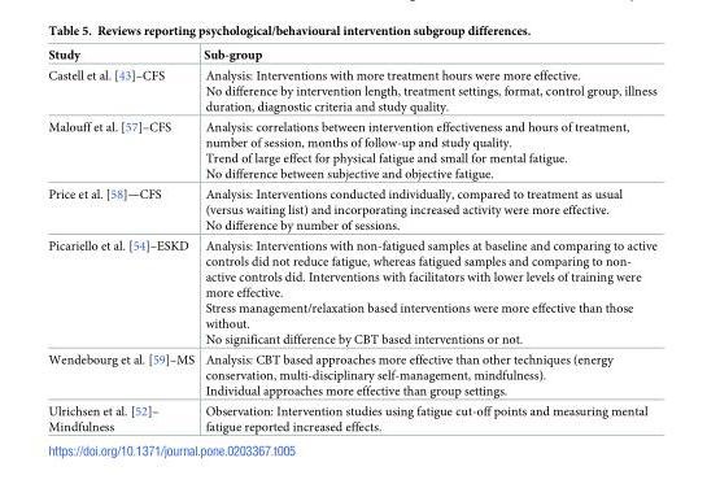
<table><thead><tr><td>Study</td><td>Sub-group</td></tr></thead><tbody><tr><td>Castell et al. [43]–CFS</td><td>Analysis: Interventions with more treatment hours were more effective. No difference by intervention length, treatment settings, format, control group, illness duration, diagnostic criteria and study quality.</td></tr><tr><td>Malouff et al. [57]–CFS</td><td>Analysis: correlations between intervention effectiveness and hours of treatment, number of session, months of follow-up and study quality. Trend of large effect for physical fatigue and small for mental fatigue. No difference between subjective and objective fatigue.</td></tr><tr><td>Price et al. [58]—CFS</td><td>Analysis: Interventions conducted individually, compared to treatment as usual (versus waiting list) and incorporating increased activity were more effective. No difference by number of sessions.</td></tr><tr><td>Picariello et al. [54]–ESKD</td><td>Analysis: Interventions with non-fatigued samples at baseline and comparing to active controls did not reduce fatigue, whereas fatigued samples and comparing to non- active controls did. Interventions with facilitators with lower levels of training were more effective. Stress management/relaxation based interventions were more effective than those without. No significant difference by CBT based interventions or not.</td></tr><tr><td>Wendebourg et al. [59]–MS</td><td>Analysis: CBT based approaches more effective than other techniques (energy conservation, multi-disciplinary self-management, mindfulness). Individual approaches more effective than group settings.</td></tr><tr><td>Ulrichsen et al. [52]– Mindfulness</td><td>Observation: Intervention studies using fatigue cut-off points and measuring mental fatigue reported increased effects.</td></tr></tbody></table>